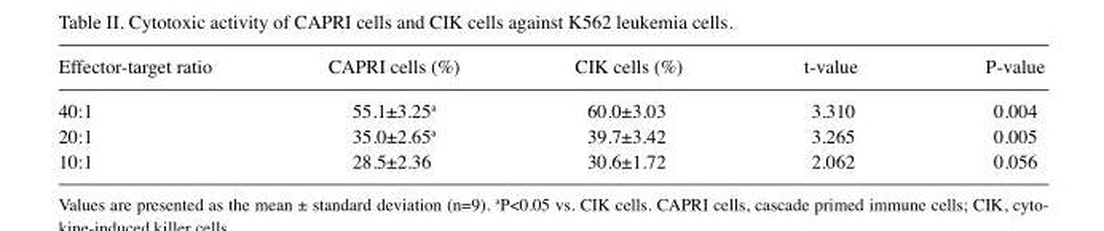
<table><thead><tr><td>Effector-target ratio</td><td>CAPRI cells (%)</td><td>CIK cells (%)</td><td>t-value</td><td>P-value</td></tr></thead><tbody><tr><td>40:1</td><td>55.1±3.25<sup>a</sup></td><td>60.0±3.03</td><td>3.310</td><td>0.004</td></tr><tr><td>20:1</td><td>35.0±2.65<sup>a</sup></td><td>39.7±3.42</td><td>3.265</td><td>0.005</td></tr><tr><td>10:1</td><td>28.5±2.36</td><td>30.6±1.72</td><td>2.062</td><td>0.056</td></tr></tbody></table>